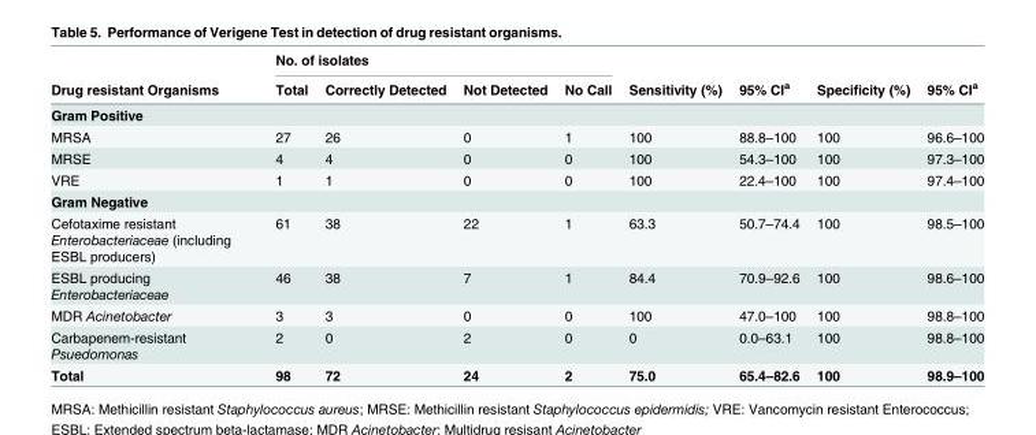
<table><thead><tr><td rowspan="2">Drug resistant Organisms</td><td colspan="4">No. of isolates</td><td rowspan="2">Sensitivity (%)</td><td rowspan="2">95% CI<sup>a</sup></td><td rowspan="2">Specificity (%)</td><td rowspan="2">95% CI<sup>a</sup></td></tr><tr><td>Total</td><td>Correctly Detected</td><td>Not Detected</td><td>No Call</td></tr></thead><tbody><tr><td colspan="9">Gram Positive</td></tr><tr><td>MRSA</td><td>27</td><td>26</td><td>0</td><td>1</td><td>100</td><td>88.8–100</td><td>100</td><td>96.6–100</td></tr><tr><td>MRSE</td><td>4</td><td>4</td><td>0</td><td>0</td><td>100</td><td>54.3–100</td><td>100</td><td>97.3–100</td></tr><tr><td>VRE</td><td>1</td><td>1</td><td>0</td><td>0</td><td>100</td><td>22.4–100</td><td>100</td><td>97.4–100</td></tr><tr><td colspan="9">Gram Negative</td></tr><tr><td>Cefotaxime resistant Enterobacteriaceae (including ESBL producers)</td><td>61</td><td>38</td><td>22</td><td>1</td><td>63.3</td><td>50.7–74.4</td><td>100</td><td>98.5–100</td></tr><tr><td>ESBL producing Enterobacteriaceae</td><td>46</td><td>38</td><td>7</td><td>1</td><td>84.4</td><td>70.9–92.6</td><td>100</td><td>98.6–100</td></tr><tr><td>MDR Acinetobacter</td><td>3</td><td>3</td><td>0</td><td>0</td><td>100</td><td>47.0–100</td><td>100</td><td>98.8–100</td></tr><tr><td>Carbapenem-resistant Psuedomonas</td><td>2</td><td>0</td><td>2</td><td>0</td><td>0</td><td>0.0–63.1</td><td>100</td><td>98.8–100</td></tr><tr><td>Total</td><td>98</td><td>72</td><td>24</td><td>2</td><td>75.0</td><td>65.4–82.6</td><td>100</td><td>98.9–100</td></tr></tbody></table>